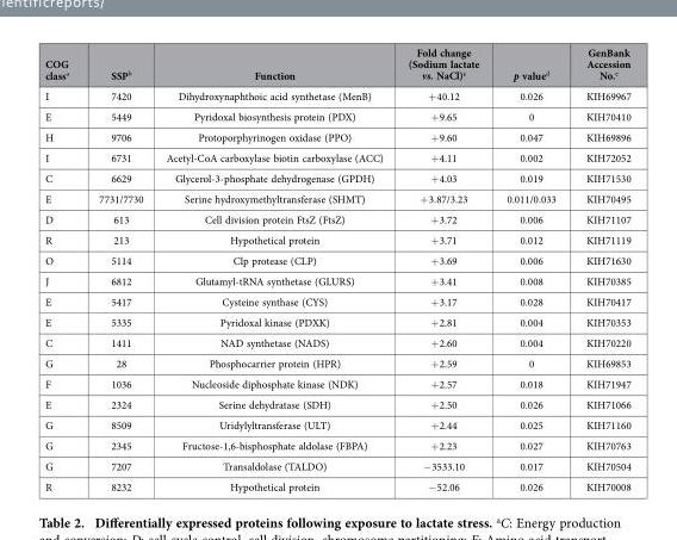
<table><thead><tr><td>COG class<sup>a</sup></td><td>SSP<sup>b</sup></td><td>Function</td><td>Fold change (Sodium lactate vs. NaCl)<sup>c</sup></td><td>p value<sup>d</sup></td><td>GenBank Accession No.<sup>e</sup></td></tr></thead><tbody><tr><td>I</td><td>7420</td><td>Dihydroxynaphthoic acid synthetase (MenB)</td><td>+ 40.12</td><td>0.026</td><td>KIH69967</td></tr><tr><td>E</td><td>5449</td><td>Pyridoxal biosynthesis protein (PDX)</td><td>+ 9.65</td><td>0</td><td>KIH70410</td></tr><tr><td>H</td><td>9706</td><td>Protoporphyrinogen oxidase (PPO)</td><td>+ 9.60</td><td>0.047</td><td>KIH69896</td></tr><tr><td>I</td><td>6731</td><td>Acetyl-CoA carboxylase biotin carboxylase (ACC)</td><td>+ 4.11</td><td>0.002</td><td>KIH72052</td></tr><tr><td>C</td><td>6629</td><td>Glycerol-3-phosphate dehydrogenase (GPDH)</td><td>+ 4.03</td><td>0.019</td><td>KIH71530</td></tr><tr><td>E</td><td>7731/7730</td><td>Serine hydroxymethyltransferase (SHMT)</td><td>+ 3.87/3.23</td><td>0.011/0.033</td><td>KIH70495</td></tr><tr><td>D</td><td>613</td><td>Cell division protein FtsZ (FtsZ)</td><td>+ 3.72</td><td>0.006</td><td>KIH71107</td></tr><tr><td>R</td><td>213</td><td>Hypothetical protein</td><td>+ 3.71</td><td>0.012</td><td>KIH71119</td></tr><tr><td>O</td><td>5114</td><td>Clp protease (CLP)</td><td>+ 3.69</td><td>0.006</td><td>KIH71630</td></tr><tr><td>J</td><td>6812</td><td>Glutamyl-tRNA synthetase (GLURS)</td><td>+ 3.41</td><td>0.008</td><td>KIH70385</td></tr><tr><td>E</td><td>5417</td><td>Cysteine synthase (CYS)</td><td>+ 3.17</td><td>0.028</td><td>KIH70417</td></tr><tr><td>E</td><td>5335</td><td>Pyridoxal kinase (PDXK)</td><td>+ 2.81</td><td>0.004</td><td>KIH70353</td></tr><tr><td>C</td><td>1411</td><td>NAD synthetase (NADS)</td><td>+ 2.60</td><td>0.004</td><td>KIH70220</td></tr><tr><td>G</td><td>28</td><td>Phosphocarrier protein (HPR)</td><td>+ 2.59</td><td>0</td><td>KIH69853</td></tr><tr><td>F</td><td>1036</td><td>Nucleoside diphosphate kinase (NDK)</td><td>+ 2.57</td><td>0.018</td><td>KIH71947</td></tr><tr><td>E</td><td>2324</td><td>Serine dehydratase (SDH)</td><td>+ 2.50</td><td>0.026</td><td>KIH71066</td></tr><tr><td>G</td><td>8509</td><td>Uridylyltransferase (ULT)</td><td>+ 2.44</td><td>0.025</td><td>KIH71160</td></tr><tr><td>G</td><td>2345</td><td>Fructose-1,6-bisphosphate aldolase (FBPA)</td><td>+ 2.23</td><td>0.027</td><td>KIH70763</td></tr><tr><td>G</td><td>7207</td><td>Transaldolase (TALDO)</td><td>− 3533.10</td><td>0.017</td><td>KIH70504</td></tr><tr><td>R</td><td>8232</td><td>Hypothetical protein</td><td>− 52.06</td><td>0.026</td><td>KIH70008</td></tr></tbody></table>